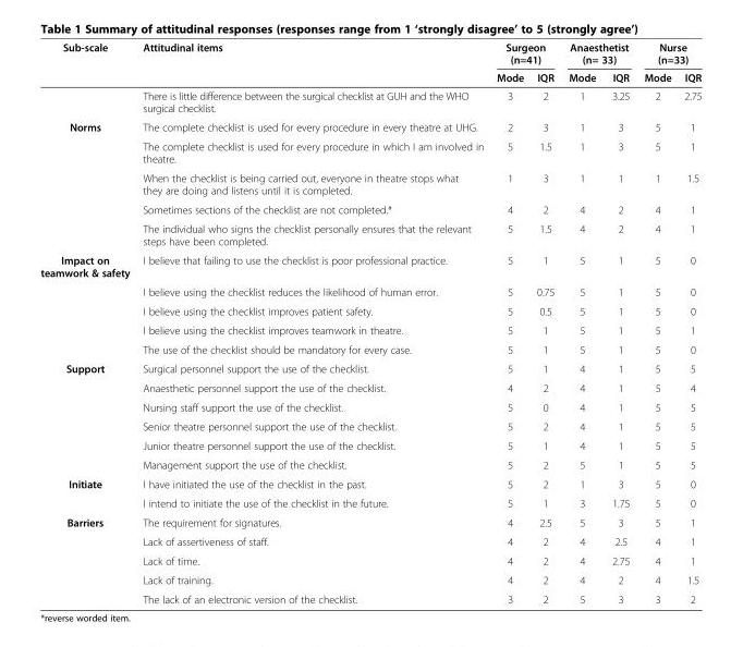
<table><thead><tr><td rowspan="2">Sub-scale</td><td rowspan="2">Attitudinal items</td><td colspan="2">Surgeon (n=41)</td><td colspan="2">Anaesthetist (n= 33)</td><td colspan="2">Nurse (n=33)</td></tr><tr><td>Mode</td><td>IQR</td><td>Mode</td><td>IQR</td><td>Mode</td><td>IQR</td></tr></thead><tbody><tr><td></td><td>There is little difference between the surgical checklist at GUH and the WHO surgical checklist.</td><td>3</td><td>2</td><td>1</td><td>3.25</td><td>2</td><td>2.75</td></tr><tr><td rowspan="5">Norms</td><td>The complete checklist is used for every procedure in every theatre at UHG.</td><td>2</td><td>3</td><td>1</td><td>3</td><td>5</td><td>1</td></tr><tr><td>The complete checklist is used for every procedure in which I am involved in theatre.</td><td>5</td><td>1.5</td><td>1</td><td>3</td><td>5</td><td>1</td></tr><tr><td>When the checklist is being carried out, everyone in theatre stops what they are doing and listens until it is completed.</td><td>1</td><td>3</td><td>1</td><td>1</td><td>1</td><td>1.5</td></tr><tr><td>Sometimes sections of the checklist are not completed.*</td><td>4</td><td>2</td><td>4</td><td>2</td><td>4</td><td>1</td></tr><tr><td>The individual who signs the checklist personally ensures that the relevant steps have been completed.</td><td>5</td><td>1.5</td><td>4</td><td>2</td><td>4</td><td>1</td></tr><tr><td rowspan="5">Impact on teamwork &amp; safety</td><td>I believe that failing to use the checklist is poor professional practice.</td><td>5</td><td>1</td><td>5</td><td>1</td><td>5</td><td>0</td></tr><tr><td>I believe using the checklist reduces the likelihood of human error.</td><td>5</td><td>0.75</td><td>5</td><td>1</td><td>5</td><td>0</td></tr><tr><td>I believe using the checklist improves patient safety.</td><td>5</td><td>0.5</td><td>5</td><td>1</td><td>5</td><td>0</td></tr><tr><td>I believe using the checklist improves teamwork in theatre.</td><td>5</td><td>1</td><td>5</td><td>1</td><td>5</td><td>1</td></tr><tr><td>The use of the checklist should be mandatory for every case.</td><td>5</td><td>1</td><td>5</td><td>1</td><td>5</td><td>0</td></tr><tr><td rowspan="6">Support</td><td>Surgical personnel support the use of the checklist.</td><td>5</td><td>1</td><td>4</td><td>1</td><td>5</td><td>5</td></tr><tr><td>Anaesthetic personnel support the use of the checklist.</td><td>4</td><td>2</td><td>4</td><td>1</td><td>5</td><td>4</td></tr><tr><td>Nursing staff support the use of the checklist.</td><td>5</td><td>0</td><td>4</td><td>1</td><td>5</td><td>5</td></tr><tr><td>Senior theatre personnel support the use of the checklist.</td><td>5</td><td>2</td><td>4</td><td>1</td><td>5</td><td>5</td></tr><tr><td>Junior theatre personnel support the use of the checklist.</td><td>5</td><td>1</td><td>4</td><td>1</td><td>5</td><td>5</td></tr><tr><td>Management support the use of the checklist.</td><td>5</td><td>2</td><td>5</td><td>1</td><td>5</td><td>5</td></tr><tr><td rowspan="2">Initiate</td><td>I have initiated the use of the checklist in the past.</td><td>5</td><td>2</td><td>1</td><td>3</td><td>5</td><td>0</td></tr><tr><td>I intend to initiate the use of the checklist in the future.</td><td>5</td><td>1</td><td>3</td><td>1.75</td><td>5</td><td>0</td></tr><tr><td rowspan="5">Barriers</td><td>The requirement for signatures.</td><td>4</td><td>2.5</td><td>5</td><td>3</td><td>5</td><td>1</td></tr><tr><td>Lack of assertiveness of staff.</td><td>4</td><td>2</td><td>4</td><td>2.5</td><td>4</td><td>1</td></tr><tr><td>Lack of time.</td><td>4</td><td>2</td><td>4</td><td>2.75</td><td>4</td><td>1</td></tr><tr><td>Lack of training.</td><td>4</td><td>2</td><td>4</td><td>2</td><td>4</td><td>1.5</td></tr><tr><td>The lack of an electronic version of the checklist.</td><td>3</td><td>2</td><td>5</td><td>3</td><td>3</td><td>2</td></tr></tbody></table>